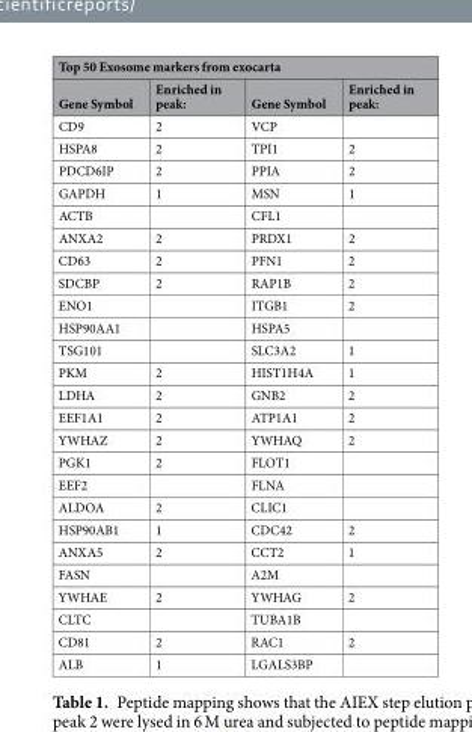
<table><thead><tr><td colspan="4">Top 50 Exosome markers from exocarta</td></tr><tr><td>Gene Symbol</td><td>Enriched in peak:</td><td>Gene Symbol</td><td>Enriched in peak:</td></tr></thead><tbody><tr><td>CD9</td><td>2</td><td>VCP</td><td></td></tr><tr><td>HSPA8</td><td>2</td><td>TPI1</td><td>2</td></tr><tr><td>PDCD6IP</td><td>2</td><td>PPIA</td><td>2</td></tr><tr><td>GAPDH</td><td>1</td><td>MSN</td><td>1</td></tr><tr><td>ACTB</td><td></td><td>CFL1</td><td></td></tr><tr><td>ANXA2</td><td>2</td><td>PRDX1</td><td>2</td></tr><tr><td>CD63</td><td>2</td><td>PFN1</td><td>2</td></tr><tr><td>SDCBP</td><td>2</td><td>RAP1B</td><td>2</td></tr><tr><td>ENO1</td><td></td><td>ITGB1</td><td>2</td></tr><tr><td>HSP90AA1</td><td></td><td>HSPA5</td><td></td></tr><tr><td>TSG101</td><td></td><td>SLC3A2</td><td>1</td></tr><tr><td>PKM</td><td>2</td><td>HIST1H4A</td><td>1</td></tr><tr><td>LDHA</td><td>2</td><td>GNB2</td><td>2</td></tr><tr><td>EEF1A1</td><td>2</td><td>ATP1A1</td><td>2</td></tr><tr><td>YWHAZ</td><td>2</td><td>YWHAQ</td><td>2</td></tr><tr><td>PGK1</td><td>2</td><td>FLOT1</td><td></td></tr><tr><td>EEF2</td><td></td><td>FLNA</td><td></td></tr><tr><td>ALDOA</td><td>2</td><td>CLIC1</td><td></td></tr><tr><td>HSP90AB1</td><td>1</td><td>CDC42</td><td>2</td></tr><tr><td>ANXA5</td><td>2</td><td>CCT2</td><td>1</td></tr><tr><td>FASN</td><td></td><td>A2M</td><td></td></tr><tr><td>YWHAE</td><td>2</td><td>YWHAG</td><td>2</td></tr><tr><td>CLTC</td><td></td><td>TUBA1B</td><td></td></tr><tr><td>CD81</td><td>2</td><td>RAC1</td><td>2</td></tr><tr><td>ALB</td><td>1</td><td>LGALS3BP</td><td></td></tr></tbody></table>